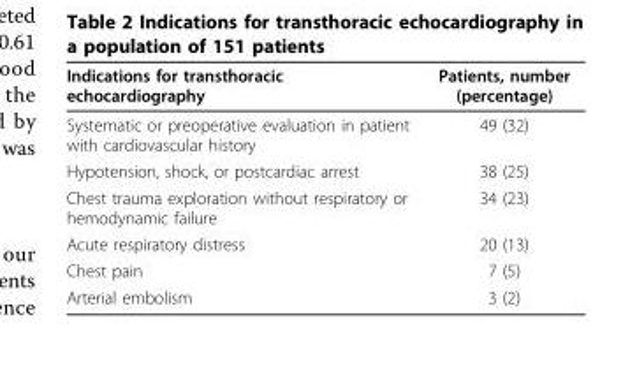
<table><thead><tr><td>Indications for transthoracic echocardiography</td><td>Patients, number (percentage)</td></tr></thead><tbody><tr><td>Systematic or preoperative evaluation in patient with cardiovascular history</td><td>49 (32)</td></tr><tr><td>Hypotension, shock, or postcardiac arrest</td><td>38 (25)</td></tr><tr><td>Chest trauma exploration without respiratory or hemodynamic failure</td><td>34 (23)</td></tr><tr><td>Acute respiratory distress</td><td>20 (13)</td></tr><tr><td>Chest pain</td><td>7 (5)</td></tr><tr><td>Arterial embolism</td><td>3 (2)</td></tr></tbody></table>